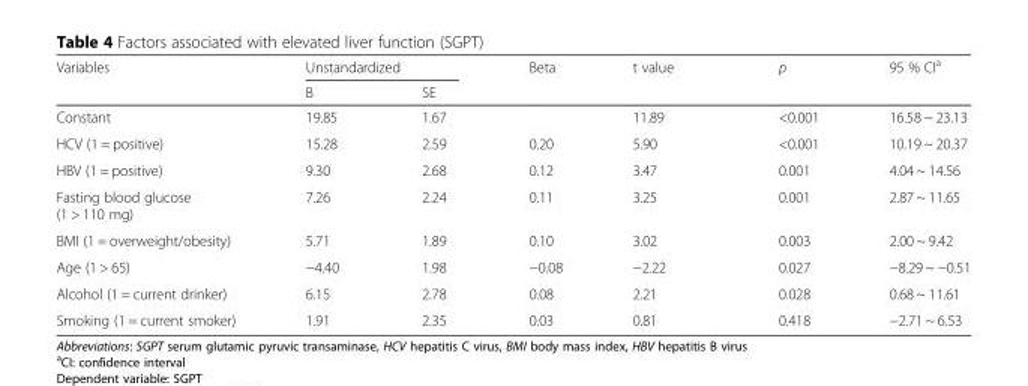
<table><thead><tr><td rowspan="2">Variables</td><td colspan="2">Unstandardized</td><td rowspan="2">Beta</td><td rowspan="2">t value</td><td rowspan="2">p</td><td rowspan="2">95 % CI<sup>a</sup></td></tr><tr><td>B</td><td>SE</td></tr></thead><tbody><tr><td>Constant</td><td>19.85</td><td>1.67</td><td></td><td>11.89</td><td>&lt;0.001</td><td>16.58 ~ 23.13</td></tr><tr><td>HCV (1 = positive)</td><td>15.28</td><td>2.59</td><td>0.20</td><td>5.90</td><td>&lt;0.001</td><td>10.19 ~ 20.37</td></tr><tr><td>HBV (1 = positive)</td><td>9.30</td><td>2.68</td><td>0.12</td><td>3.47</td><td>0.001</td><td>4.04 ~ 14.56</td></tr><tr><td>Fasting blood glucose (1 &gt; 110 mg)</td><td>7.26</td><td>2.24</td><td>0.11</td><td>3.25</td><td>0.001</td><td>2.87 ~ 11.65</td></tr><tr><td>BMI (1 = overweight/obesity)</td><td>5.71</td><td>1.89</td><td>0.10</td><td>3.02</td><td>0.003</td><td>2.00 ~ 9.42</td></tr><tr><td>Age (1 &gt; 65)</td><td>−4.40</td><td>1.98</td><td>−0.08</td><td>−2.22</td><td>0.027</td><td>−8.29 ~ −0.51</td></tr><tr><td>Alcohol (1 = current drinker)</td><td>6.15</td><td>2.78</td><td>0.08</td><td>2.21</td><td>0.028</td><td>0.68 ~ 11.61</td></tr><tr><td>Smoking (1 = current smoker)</td><td>1.91</td><td>2.35</td><td>0.03</td><td>0.81</td><td>0.418</td><td>−2.71 ~ 6.53</td></tr></tbody></table>